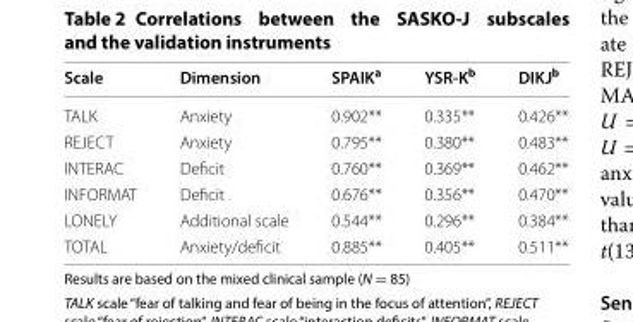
<table><thead><tr><td>Scale</td><td>Dimension</td><td>SPAIK<sup>a</sup></td><td>YSR‑K<sup>b</sup></td><td>DIKJ<sup>b</sup></td></tr></thead><tbody><tr><td>TALK</td><td>Anxiety</td><td>0.902**</td><td>0.335**</td><td>0.426**</td></tr><tr><td>REJECT</td><td>Anxiety</td><td>0.795**</td><td>0.380**</td><td>0.483**</td></tr><tr><td>INTERAC</td><td>Deficit</td><td>0.760**</td><td>0.369**</td><td>0.462**</td></tr><tr><td>INFORMAT</td><td>Deficit</td><td>0.676**</td><td>0.356**</td><td>0.470**</td></tr><tr><td>LONELY</td><td>Additional scale</td><td>0.544**</td><td>0.296**</td><td>0.384**</td></tr><tr><td>TOTAL</td><td>Anxiety/deficit</td><td>0.885**</td><td>0.405**</td><td>0.511**</td></tr></tbody></table>